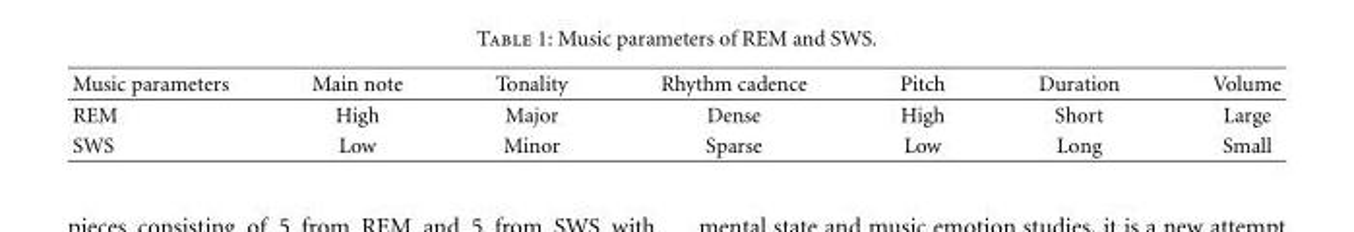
<table><thead><tr><td>Music parameters</td><td>Main note</td><td>Tonality</td><td>Rhythm cadence</td><td>Pitch</td><td>Duration</td><td>Volume</td></tr></thead><tbody><tr><td>REM</td><td>High</td><td>Major</td><td>Dense</td><td>High</td><td>Short</td><td>Large</td></tr><tr><td>SWS</td><td>Low</td><td>Minor</td><td>Sparse</td><td>Low</td><td>Long</td><td>Small</td></tr></tbody></table>